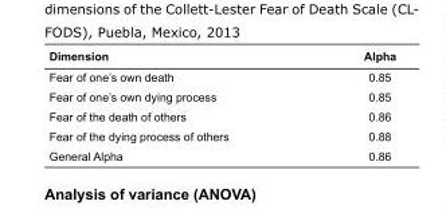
<table><thead><tr><td>Dimension</td><td>Alpha</td></tr></thead><tbody><tr><td>Fear of one’s own death</td><td>0.85</td></tr><tr><td>Fear of one’s own dying process</td><td>0.85</td></tr><tr><td>Fear of the death of others</td><td>0.86</td></tr><tr><td>Fear of the dying process of others</td><td>0.88</td></tr><tr><td>General Alpha</td><td>0.86</td></tr></tbody></table>